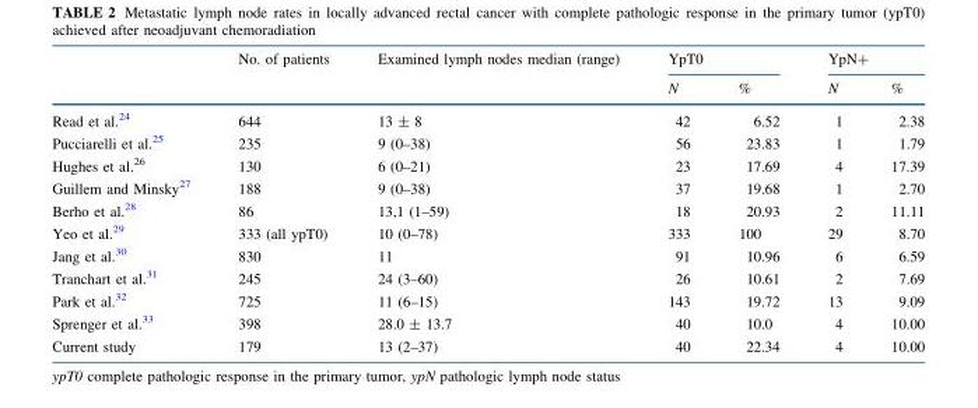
<table><thead><tr><td rowspan="2"></td><td rowspan="2">No. of patients</td><td rowspan="2">Examined lymph nodes median (range)</td><td colspan="2">YpT0</td><td colspan="2">YpN+</td></tr><tr><td>N</td><td>%</td><td>N</td><td>%</td></tr></thead><tbody><tr><td>Read et al.<sup>24</sup></td><td>644</td><td>13 ± 8</td><td>42</td><td>6.52</td><td>1</td><td>2.38</td></tr><tr><td>Pucciarelli et al.<sup>25</sup></td><td>235</td><td>9 (0–38)</td><td>56</td><td>23.83</td><td>1</td><td>1.79</td></tr><tr><td>Hughes et al.<sup>26</sup></td><td>130</td><td>6 (0–21)</td><td>23</td><td>17.69</td><td>4</td><td>17.39</td></tr><tr><td>Guillem and Minsky<sup>27</sup></td><td>188</td><td>9 (0–38)</td><td>37</td><td>19.68</td><td>1</td><td>2.70</td></tr><tr><td>Berho et al.<sup>28</sup></td><td>86</td><td>13,1 (1–59)</td><td>18</td><td>20.93</td><td>2</td><td>11.11</td></tr><tr><td>Yeo et al.<sup>29</sup></td><td>333 (all ypT0)</td><td>10 (0–78)</td><td>333</td><td>100</td><td>29</td><td>8.70</td></tr><tr><td>Jang et al.<sup>30</sup></td><td>830</td><td>11</td><td>91</td><td>10.96</td><td>6</td><td>6.59</td></tr><tr><td>Tranchart et al.<sup>31</sup></td><td>245</td><td>24 (3–60)</td><td>26</td><td>10.61</td><td>2</td><td>7.69</td></tr><tr><td>Park et al.<sup>32</sup></td><td>725</td><td>11 (6–15)</td><td>143</td><td>19.72</td><td>13</td><td>9.09</td></tr><tr><td>Sprenger et al.<sup>33</sup></td><td>398</td><td>28.0 ± 13.7</td><td>40</td><td>10.0</td><td>4</td><td>10.00</td></tr><tr><td>Current study</td><td>179</td><td>13 (2–37)</td><td>40</td><td>22.34</td><td>4</td><td>10.00</td></tr></tbody></table>